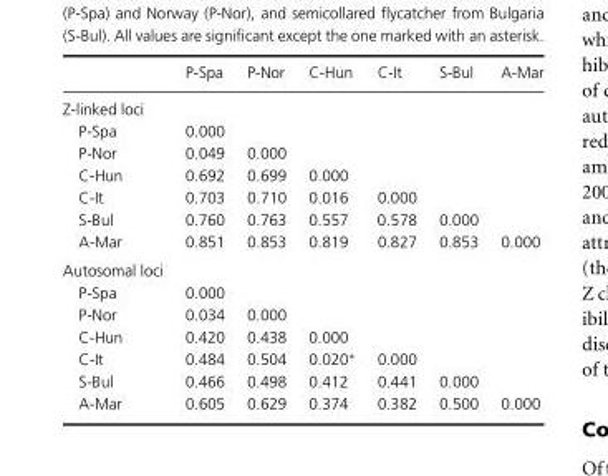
<table><thead><tr><td></td><td>P-Spa</td><td>P-Nor</td><td>C-Hun</td><td>C-It</td><td>S-Bul</td><td>A-Mar</td></tr></thead><tbody><tr><td colspan="7">Z-linked loci</td></tr><tr><td>P-Spa</td><td>0.000</td><td></td><td></td><td></td><td></td><td></td></tr><tr><td>P-Nor</td><td>0.049</td><td>0.000</td><td></td><td></td><td></td><td></td></tr><tr><td>C-Hun</td><td>0.692</td><td>0.699</td><td>0.000</td><td></td><td></td><td></td></tr><tr><td>C-It</td><td>0.703</td><td>0.710</td><td>0.016</td><td>0.000</td><td></td><td></td></tr><tr><td>S-Bul</td><td>0.760</td><td>0.763</td><td>0.557</td><td>0.578</td><td>0.000</td><td></td></tr><tr><td>A-Mar</td><td>0.851</td><td>0.853</td><td>0.819</td><td>0.827</td><td>0.853</td><td>0.000</td></tr><tr><td colspan="7">Autosomal loci</td></tr><tr><td>P-Spa</td><td>0.000</td><td></td><td></td><td></td><td></td><td></td></tr><tr><td>P-Nor</td><td>0.034</td><td>0.000</td><td></td><td></td><td></td><td></td></tr><tr><td>C-Hun</td><td>0.420</td><td>0.438</td><td>0.000</td><td></td><td></td><td></td></tr><tr><td>C-It</td><td>0.484</td><td>0.504</td><td>0.020∗</td><td>0.000</td><td></td><td></td></tr><tr><td>S-Bul</td><td>0.466</td><td>0.498</td><td>0.412</td><td>0.441</td><td>0.000</td><td></td></tr><tr><td>A-Mar</td><td>0.605</td><td>0.629</td><td>0.374</td><td>0.382</td><td>0.500</td><td>0.000</td></tr></tbody></table>